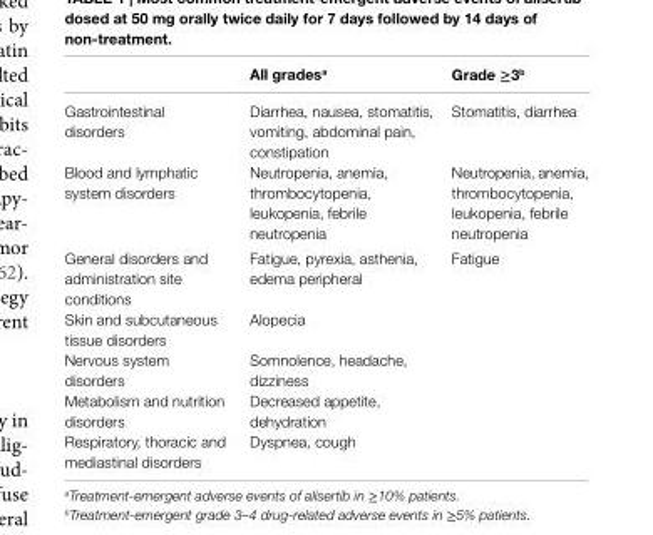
<table><thead><tr><td></td><td>All grades<sup>a</sup></td><td>Grade ≥3<sup>b</sup></td></tr></thead><tbody><tr><td>Gastrointestinal disorders</td><td>Diarrhea, nausea, stomatitis, vomiting, abdominal pain, constipation</td><td>Stomatitis, diarrhea</td></tr><tr><td>Blood and lymphatic system disorders</td><td>Neutropenia, anemia, thrombocytopenia, leukopenia, febrile neutropenia</td><td>Neutropenia, anemia, thrombocytopenia, leukopenia, febrile neutropenia</td></tr><tr><td>General disorders and administration site conditions</td><td>Fatigue, pyrexia, asthenia, edema peripheral</td><td>Fatigue</td></tr><tr><td>Skin and subcutaneous tissue disorders</td><td>Alopecia</td><td></td></tr><tr><td>Nervous system disorders</td><td>Somnolence, headache, dizziness</td><td></td></tr><tr><td>Metabolism and nutrition disorders</td><td>Decreased appetite, dehydration</td><td></td></tr><tr><td>Respiratory, thoracic and mediastinal disorders</td><td>Dyspnea, cough</td><td></td></tr></tbody></table>